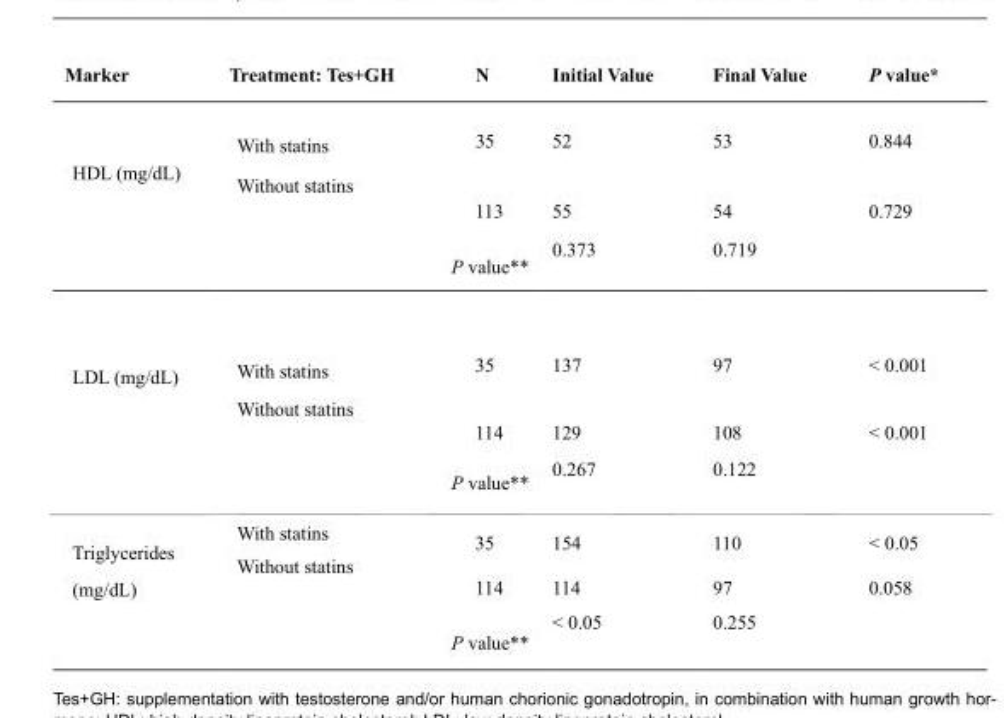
<table><thead><tr><td>Marker</td><td>Treatment: Tes+GH</td><td>N</td><td>Initial Value</td><td>Final Value</td><td>P value*</td></tr></thead><tbody><tr><td rowspan="2">HDL (mg/dL)</td><td>With statins</td><td>35</td><td>52</td><td>53</td><td>0.844</td></tr><tr><td>Without statins</td><td>113</td><td>55</td><td>54</td><td>0.729</td></tr><tr><td colspan="3">P value**</td><td>0.373</td><td>0.719</td><td></td></tr><tr><td rowspan="2">LDL (mg/dL)</td><td>With statins</td><td>35</td><td>137</td><td>97</td><td>&lt; 0.001</td></tr><tr><td>Without statins</td><td>114</td><td>129</td><td>108</td><td>&lt; 0.001</td></tr><tr><td colspan="3">P value**</td><td>0.267</td><td>0.122</td><td></td></tr><tr><td rowspan="2">Triglycerides (mg/dL)</td><td>With statins</td><td>35</td><td>154</td><td>110</td><td>&lt; 0.05</td></tr><tr><td>Without statins</td><td>114</td><td>114</td><td>97</td><td>0.058</td></tr><tr><td colspan="3">P value**</td><td>&lt; 0.05</td><td>0.255</td><td></td></tr></tbody></table>